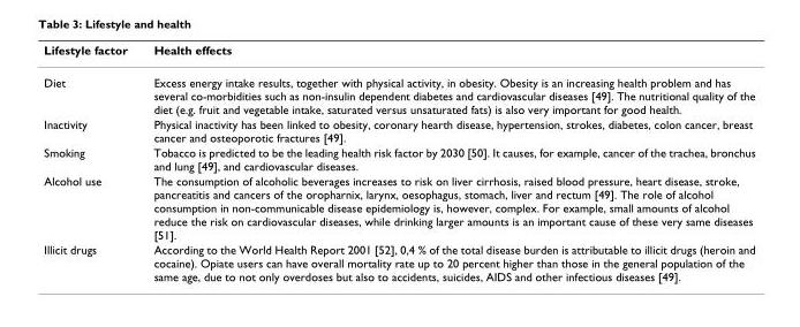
<table><thead><tr><td>Lifestyle factor</td><td>Health effects</td></tr></thead><tbody><tr><td>Diet</td><td>Excess energy intake results, together with physical activity, in obesity. Obesity is an increasing health problem and has several co-morbidities such as non-insulin dependent diabetes and cardiovascular diseases [49]. The nutritional quality of the diet (e.g. fruit and vegetable intake, saturated versus unsaturated fats) is also very important for good health.</td></tr><tr><td>Inactivity</td><td>Physical inactivity has been linked to obesity, coronary hearth disease, hypertension, strokes, diabetes, colon cancer, breast cancer and osteoporotic fractures [49].</td></tr><tr><td>Smoking</td><td>Tobacco is predicted to be the leading health risk factor by 2030 [50]. It causes, for example, cancer of the trachea, bronchus and lung [49], and cardiovascular diseases.</td></tr><tr><td>Alcohol use</td><td>The consumption of alcoholic beverages increases to risk on liver cirrhosis, raised blood pressure, heart disease, stroke, pancreatitis and cancers of the oropharnix, larynx, oesophagus, stomach, liver and rectum [49]. The role of alcohol consumption in non-communicable disease epidemiology is, however, complex. For example, small amounts of alcohol reduce the risk on cardiovascular diseases, while drinking larger amounts is an important cause of these very same diseases [51].</td></tr><tr><td>Illicit drugs</td><td>According to the World Health Report 2001 [52], 0,4 % of the total disease burden is attributable to illicit drugs (heroin and cocaine). Opiate users can have overall mortality rate up to 20 percent higher than those in the general population of the same age, due to not only overdoses but also to accidents, suicides, AIDS and other infectious diseases [49].</td></tr></tbody></table>